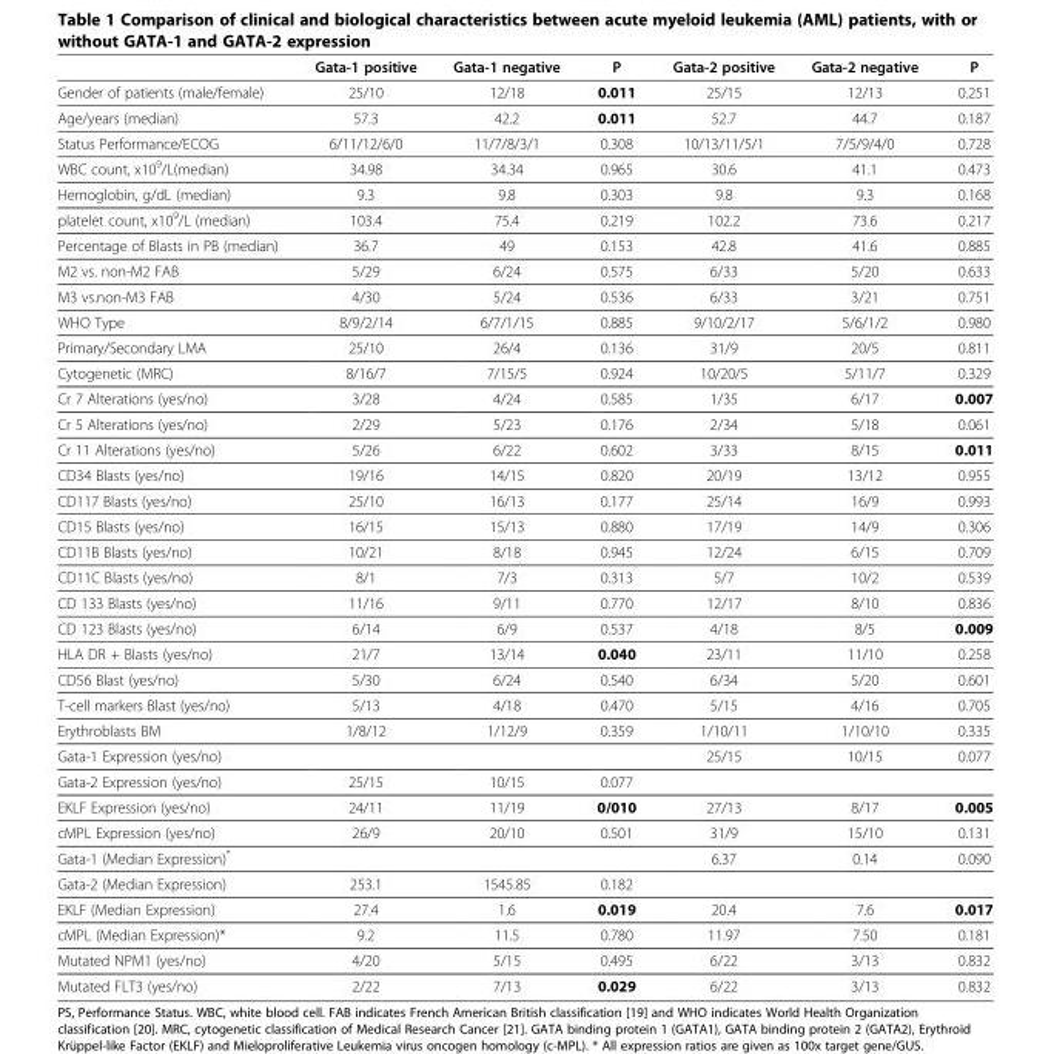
<table><thead><tr><td></td><td>Gata-1 positive</td><td>Gata-1 negative</td><td>P</td><td>Gata-2 positive</td><td>Gata-2 negative</td><td>P</td></tr></thead><tbody><tr><td>Gender of patients (male/female)</td><td>25/10</td><td>12/18</td><td>0.011</td><td>25/15</td><td>12/13</td><td>0.251</td></tr><tr><td>Age/years (median)</td><td>57.3</td><td>42.2</td><td>0.011</td><td>52.7</td><td>44.7</td><td>0.187</td></tr><tr><td>Status Performance/ECOG</td><td>6/11/12/6/0</td><td>11/7/8/3/1</td><td>0.308</td><td>10/13/11/5/1</td><td>7/5/9/4/0</td><td>0.728</td></tr><tr><td>WBC count, x10<sup>9</sup>/L(median)</td><td>34.98</td><td>34.34</td><td>0.965</td><td>30.6</td><td>41.1</td><td>0.473</td></tr><tr><td>Hemoglobin, g/dL (median)</td><td>9.3</td><td>9.8</td><td>0.303</td><td>9.8</td><td>9.3</td><td>0.168</td></tr><tr><td>platelet count, x10<sup>9</sup>/L (median)</td><td>103.4</td><td>75.4</td><td>0.219</td><td>102.2</td><td>73.6</td><td>0.217</td></tr><tr><td>Percentage of Blasts in PB (median)</td><td>36.7</td><td>49</td><td>0.153</td><td>42.8</td><td>41.6</td><td>0.885</td></tr><tr><td>M2 vs. non-M2 FAB</td><td>5/29</td><td>6/24</td><td>0.575</td><td>6/33</td><td>5/20</td><td>0.633</td></tr><tr><td>M3 vs.non-M3 FAB</td><td>4/30</td><td>5/24</td><td>0.536</td><td>6/33</td><td>3/21</td><td>0.751</td></tr><tr><td>WHO Type</td><td>8/9/2/14</td><td>6/7/1/15</td><td>0.885</td><td>9/10/2/17</td><td>5/6/1/2</td><td>0.980</td></tr><tr><td>Primary/Secondary LMA</td><td>25/10</td><td>26/4</td><td>0.136</td><td>31/9</td><td>20/5</td><td>0.811</td></tr><tr><td>Cytogenetic (MRC)</td><td>8/16/7</td><td>7/15/5</td><td>0.924</td><td>10/20/5</td><td>5/11/7</td><td>0.329</td></tr><tr><td>Cr 7 Alterations (yes/no)</td><td>3/28</td><td>4/24</td><td>0.585</td><td>1/35</td><td>6/17</td><td>0.007</td></tr><tr><td>Cr 5 Alterations (yes/no)</td><td>2/29</td><td>5/23</td><td>0.176</td><td>2/34</td><td>5/18</td><td>0.061</td></tr><tr><td>Cr 11 Alterations (yes/no)</td><td>5/26</td><td>6/22</td><td>0.602</td><td>3/33</td><td>8/15</td><td>0.011</td></tr><tr><td>CD34 Blasts (yes/no)</td><td>19/16</td><td>14/15</td><td>0.820</td><td>20/19</td><td>13/12</td><td>0.955</td></tr><tr><td>CD117 Blasts (yes/no)</td><td>25/10</td><td>16/13</td><td>0.177</td><td>25/14</td><td>16/9</td><td>0.993</td></tr><tr><td>CD15 Blasts (yes/no)</td><td>16/15</td><td>15/13</td><td>0.880</td><td>17/19</td><td>14/9</td><td>0.306</td></tr><tr><td>CD11B Blasts (yes/no)</td><td>10/21</td><td>8/18</td><td>0.945</td><td>12/24</td><td>6/15</td><td>0.709</td></tr><tr><td>CD11C Blasts (yes/no)</td><td>8/1</td><td>7/3</td><td>0.313</td><td>5/7</td><td>10/2</td><td>0.539</td></tr><tr><td>CD 133 Blasts (yes/no)</td><td>11/16</td><td>9/11</td><td>0.770</td><td>12/17</td><td>8/10</td><td>0.836</td></tr><tr><td>CD 123 Blasts (yes/no)</td><td>6/14</td><td>6/9</td><td>0.537</td><td>4/18</td><td>8/5</td><td>0.009</td></tr><tr><td>HLA DR + Blasts (yes/no)</td><td>21/7</td><td>13/14</td><td>0.040</td><td>23/11</td><td>11/10</td><td>0.258</td></tr><tr><td>CD56 Blast (yes/no)</td><td>5/30</td><td>6/24</td><td>0.540</td><td>6/34</td><td>5/20</td><td>0.601</td></tr><tr><td>T-cell markers Blast (yes/no)</td><td>5/13</td><td>4/18</td><td>0.470</td><td>5/15</td><td>4/16</td><td>0.705</td></tr><tr><td>Erythroblasts BM</td><td>1/8/12</td><td>1/12/9</td><td>0.359</td><td>1/10/11</td><td>1/10/10</td><td>0.335</td></tr><tr><td>Gata-1 Expression (yes/no)</td><td></td><td></td><td></td><td>25/15</td><td>10/15</td><td>0.077</td></tr><tr><td>Gata-2 Expression (yes/no)</td><td>25/15</td><td>10/15</td><td>0.077</td><td></td><td></td><td></td></tr><tr><td>EKLF Expression (yes/no)</td><td>24/11</td><td>11/19</td><td>0/010</td><td>27/13</td><td>8/17</td><td>0.005</td></tr><tr><td>cMPL Expression (yes/no)</td><td>26/9</td><td>20/10</td><td>0.501</td><td>31/9</td><td>15/10</td><td>0.131</td></tr><tr><td>Gata-1 (Median Expression)*</td><td></td><td></td><td></td><td>6.37</td><td>0.14</td><td>0.090</td></tr><tr><td>Gata-2 (Median Expression)</td><td>253.1</td><td>1545.85</td><td>0.182</td><td></td><td></td><td></td></tr><tr><td>EKLF (Median Expression)</td><td>27.4</td><td>1.6</td><td>0.019</td><td>20.4</td><td>7.6</td><td>0.017</td></tr><tr><td>cMPL (Median Expression)*</td><td>9.2</td><td>11.5</td><td>0.780</td><td>11.97</td><td>7.50</td><td>0.181</td></tr><tr><td>Mutated NPM1 (yes/no)</td><td>4/20</td><td>5/15</td><td>0.495</td><td>6/22</td><td>3/13</td><td>0.832</td></tr><tr><td>Mutated FLT3 (yes/no)</td><td>2/22</td><td>7/13</td><td>0.029</td><td>6/22</td><td>3/13</td><td>0.832</td></tr></tbody></table>